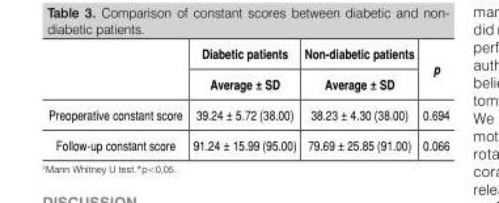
<table><thead><tr><td rowspan="2"></td><td rowspan="2">Diabetic patients Average ± SD</td><td rowspan="2">Non-diabetic patients Average ± SD</td><td rowspan="2">p</td></tr><tr></tr></thead><tbody><tr><td>Preoperative constant score</td><td>39.24 ± 5.72 (38.00)</td><td>38.23 ± 4.30 (38.00)</td><td>0.694</td></tr><tr><td>Follow-up constant score</td><td>91.24 ± 15.99 (95.00)</td><td>79.69 ± 25.85 (91.00)</td><td>0.066</td></tr></tbody></table>